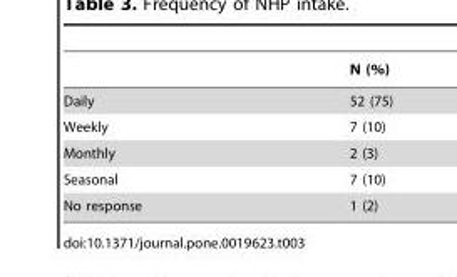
<table><thead><tr><td></td><td>N (%)</td></tr></thead><tbody><tr><td>Daily</td><td>52 (75)</td></tr><tr><td>Weekly</td><td>7 (10)</td></tr><tr><td>Monthly</td><td>2 (3)</td></tr><tr><td>Seasonal</td><td>7 (10)</td></tr><tr><td>No response</td><td>1 (2)</td></tr></tbody></table>